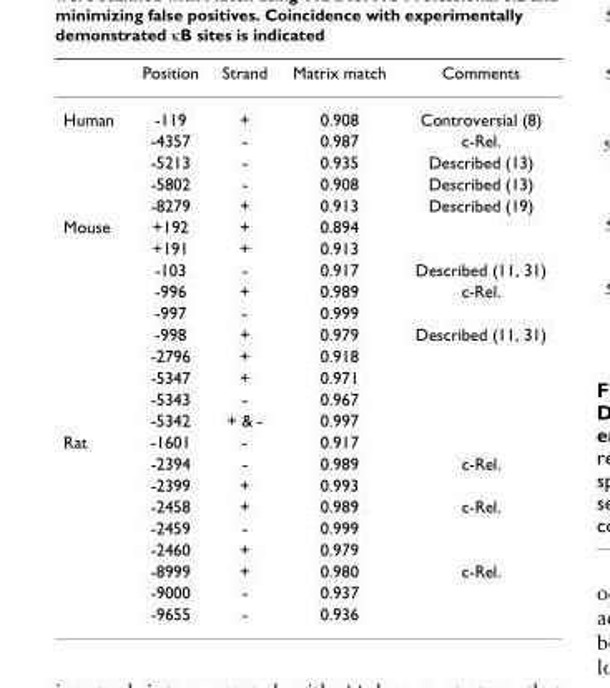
<table><thead><tr><td></td><td>Position</td><td>Strand</td><td>Matrix match</td><td>Comments</td></tr></thead><tbody><tr><td rowspan="5">Human</td><td>-119</td><td>+</td><td>0.908</td><td>Controversial (8)</td></tr><tr><td>-4357</td><td>-</td><td>0.987</td><td>c-Rel.</td></tr><tr><td>-5213</td><td>-</td><td>0.935</td><td>Described (13)</td></tr><tr><td>-5802</td><td>-</td><td>0.908</td><td>Described (13)</td></tr><tr><td>-8279</td><td>+</td><td>0.913</td><td>Described (19)</td></tr><tr><td rowspan="10">Mouse</td><td>+192</td><td>+</td><td>0.894</td><td></td></tr><tr><td>+191</td><td>+</td><td>0.913</td><td></td></tr><tr><td>-103</td><td>-</td><td>0.917</td><td>Described (11, 31)</td></tr><tr><td>-996</td><td>+</td><td>0.989</td><td>c-Rel.</td></tr><tr><td>-997</td><td>-</td><td>0.999</td><td></td></tr><tr><td>-998</td><td>+</td><td>0.979</td><td>Described (11, 31)</td></tr><tr><td>-2796</td><td>+</td><td>0.918</td><td></td></tr><tr><td>-5347</td><td>+</td><td>0.971</td><td></td></tr><tr><td>-5343</td><td>-</td><td>0.967</td><td></td></tr><tr><td>-5342</td><td>+ &amp; -</td><td>0.997</td><td></td></tr><tr><td rowspan="9">Rat</td><td>-1601</td><td>-</td><td>0.917</td><td></td></tr><tr><td>-2394</td><td>-</td><td>0.989</td><td>c-Rel.</td></tr><tr><td>-2399</td><td>+</td><td>0.993</td><td></td></tr><tr><td>-2458</td><td>+</td><td>0.989</td><td>c-Rel.</td></tr><tr><td>-2459</td><td>-</td><td>0.999</td><td></td></tr><tr><td>-2460</td><td>+</td><td>0.979</td><td></td></tr><tr><td>-8999</td><td>+</td><td>0.980</td><td>c-Rel.</td></tr><tr><td>-9000</td><td>-</td><td>0.937</td><td></td></tr><tr><td>-9655</td><td>-</td><td>0.936</td><td></td></tr></tbody></table>